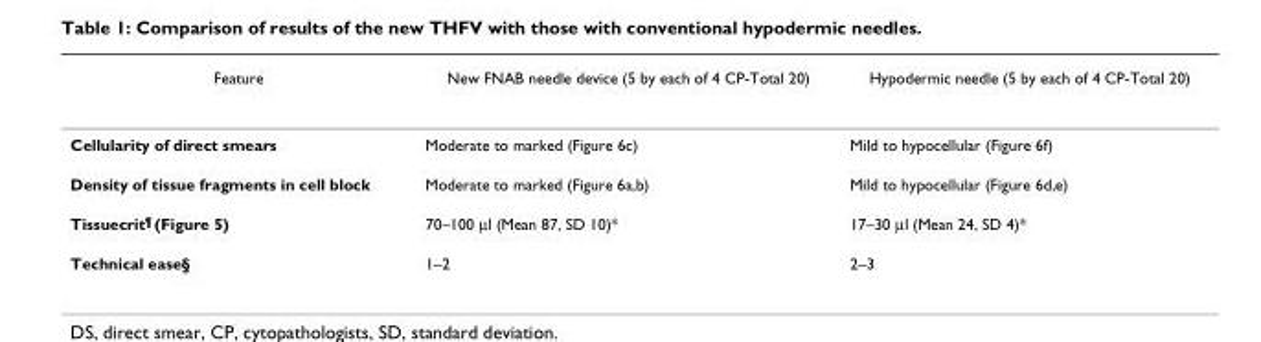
<table><thead><tr><td>Feature</td><td>New FNAB needle device (5 by each of 4 CP-Total 20)</td><td>Hypodermic needle (5 by each of 4 CP-Total 20)</td></tr></thead><tbody><tr><td>Cellularity of direct smears</td><td>Moderate to marked (Figure 6c)</td><td>Mild to hypocellular (Figure 6f)</td></tr><tr><td>Density of tissue fragments in cell block</td><td>Moderate to marked (Figure 6a,b)</td><td>Mild to hypocellular (Figure 6d,e)</td></tr><tr><td>Tissuecrit<sup>¶</sup> (Figure 5)</td><td>70–100 μl (Mean 87, SD 10)*</td><td>17–30 μl (Mean 24, SD 4)*</td></tr><tr><td>Technical ease§</td><td>1–2</td><td>2–3</td></tr></tbody></table>